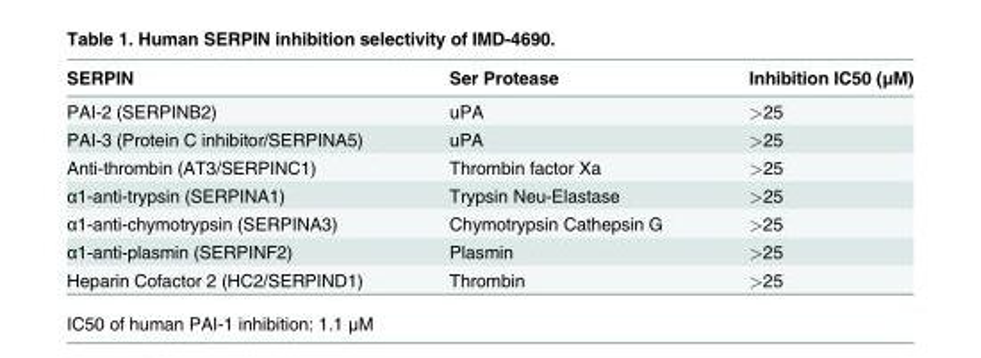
<table><thead><tr><td>SERPIN</td><td>Ser Protease</td><td>Inhibition IC50 (μM)</td></tr></thead><tbody><tr><td>PAI-2 (SERPINB2)</td><td>uPA</td><td>&gt;25</td></tr><tr><td>PAI-3 (Protein C inhibitor/SERPINA5)</td><td>uPA</td><td>&gt;25</td></tr><tr><td>Anti-thrombin (AT3/SERPINC1)</td><td>Thrombin factor Xa</td><td>&gt;25</td></tr><tr><td>α1-anti-trypsin (SERPINA1)</td><td>Trypsin Neu-Elastase</td><td>&gt;25</td></tr><tr><td>α1-anti-chymotrypsin (SERPINA3)</td><td>Chymotrypsin Cathepsin G</td><td>&gt;25</td></tr><tr><td>α1-anti-plasmin (SERPINF2)</td><td>Plasmin</td><td>&gt;25</td></tr><tr><td>Heparin Cofactor 2 (HC2/SERPIND1)</td><td>Thrombin</td><td>&gt;25</td></tr></tbody></table>